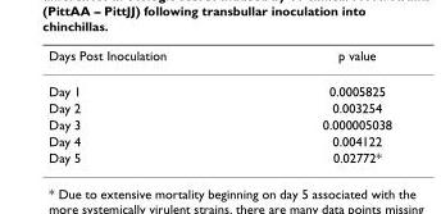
<table><thead><tr><td>Days Post Inoculation</td><td>p value</td></tr></thead><tbody><tr><td>Day 1</td><td>0.0005825</td></tr><tr><td>Day 2</td><td>0.003254</td></tr><tr><td>Day 3</td><td>0.000005038</td></tr><tr><td>Day 4</td><td>0.004122</td></tr><tr><td>Day 5</td><td>0.02772*</td></tr></tbody></table>